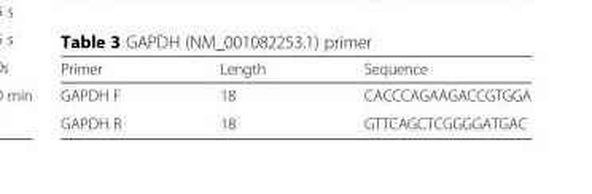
<table><thead><tr><td>Primer</td><td>Length</td><td>Sequence</td></tr></thead><tbody><tr><td>GAPDH F</td><td>18</td><td>CACCCAGAAGACCGTGGA</td></tr><tr><td>GAPDH R</td><td>18</td><td>GTTCAGCTCGGGGATGAC</td></tr></tbody></table>